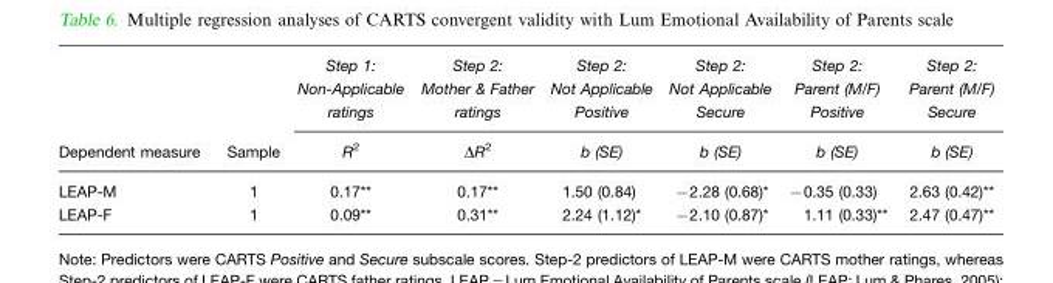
<table><thead><tr><td rowspan="2">Dependent measure</td><td rowspan="2">Sample</td><td rowspan="2">Step 1: Non-Applicable ratings R<sup>2</sup></td><td rowspan="2">Step 2: Mother &amp; Father ratings ΔR<sup>2</sup></td><td rowspan="2">Step 2: Not Applicable Positive b (SE)</td><td rowspan="2">Step 2: Not Applicable Secure b (SE)</td><td rowspan="2">Step 2: Parent (M/F) Positive b (SE)</td><td rowspan="2">Step 2: Parent (M/F) Secure b (SE)</td></tr><tr></tr></thead><tbody><tr><td>LEAP-M</td><td>1</td><td>0.17**</td><td>0.17**</td><td>1.50 (0.84)</td><td>−2.28 (0.68)*</td><td>−0.35 (0.33)</td><td>2.63 (0.42)**</td></tr><tr><td>LEAP-F</td><td>1</td><td>0.09**</td><td>0.31**</td><td>2.24 (1.12)*</td><td>−2.10 (0.87)*</td><td>1.11 (0.33)**</td><td>2.47 (0.47)**</td></tr></tbody></table>